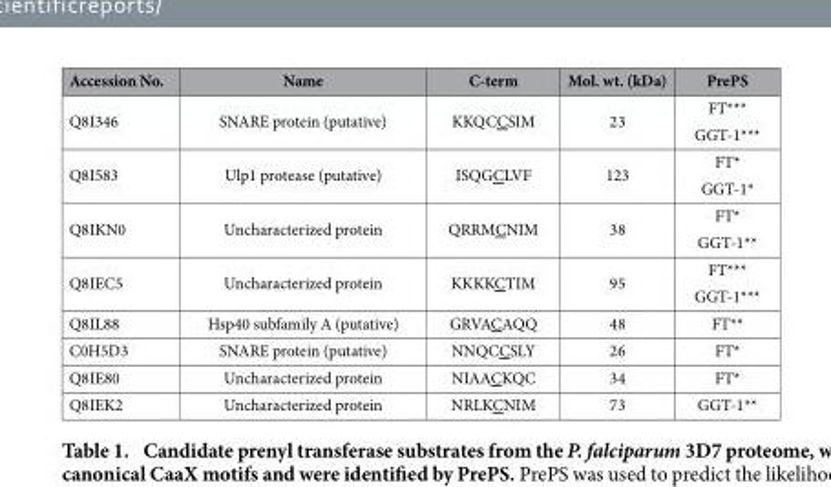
<table><thead><tr><td>Accession No.</td><td>Name</td><td>C-term</td><td>Mol. wt. (kDa)</td><td>PrePS</td></tr></thead><tbody><tr><td>Q8I346</td><td>SNARE protein (putative)</td><td>KKQCCSIM</td><td>23</td><td>FT*** GGT-1***</td></tr><tr><td>Q8I583</td><td>Ulp1 protease (putative)</td><td>ISQGCLVF</td><td>123</td><td>FT* GGT-1*</td></tr><tr><td>Q8IKN0</td><td>Uncharacterized protein</td><td>QRRMCNIM</td><td>38</td><td>FT* GGT-1**</td></tr><tr><td>Q8IEC5</td><td>Uncharacterized protein</td><td>KKKKCTIM</td><td>95</td><td>FT*** GGT-1***</td></tr><tr><td>Q8IL88</td><td>Hsp40 subfamily A (putative)</td><td>GRVACAQQ</td><td>48</td><td>FT**</td></tr><tr><td>C0H5D3</td><td>SNARE protein (putative)</td><td>NNQCCSLY</td><td>26</td><td>FT*</td></tr><tr><td>Q8IE80</td><td>Uncharacterized protein</td><td>NIAACKQC</td><td>34</td><td>FT*</td></tr><tr><td>Q8IEK2</td><td>Uncharacterized protein</td><td>NRLKCNIM</td><td>73</td><td>GGT-1**</td></tr></tbody></table>